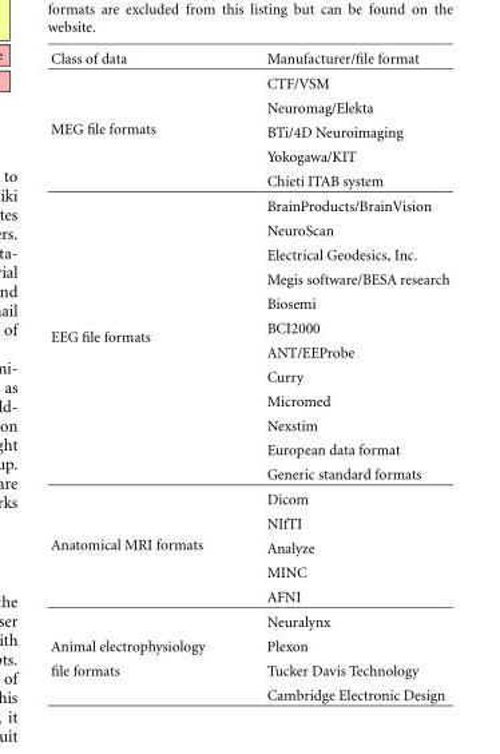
<table><thead><tr><td>Class of data</td><td>Manufacturer/file format</td></tr></thead><tbody><tr><td rowspan="5">MEG file formats</td><td>CTF/VSM</td></tr><tr><td>Neuromag/Elekta</td></tr><tr><td>BTi/4D Neuroimaging</td></tr><tr><td>Yokogawa/KIT</td></tr><tr><td>Chieti ITAB system</td></tr><tr><td rowspan="12">EEG file formats</td><td>BrainProducts/BrainVision</td></tr><tr><td>NeuroScan</td></tr><tr><td>Electrical Geodesics, Inc.</td></tr><tr><td>Megis software/BESA research</td></tr><tr><td>Biosemi</td></tr><tr><td>BCI2000</td></tr><tr><td>ANT/EEProbe</td></tr><tr><td>Curry</td></tr><tr><td>Micromed</td></tr><tr><td>Nexstim</td></tr><tr><td>European data format</td></tr><tr><td>Generic standard formats</td></tr><tr><td rowspan="6">Anatomical MRI formats</td><td>Dicom</td></tr><tr><td>NIfTI</td></tr><tr><td>Analyze</td></tr><tr><td>MINC</td></tr><tr><td>AFNI</td></tr><tr><td>Neuralynx</td></tr><tr><td>Animal electrophysiology</td><td>Plexon</td></tr><tr><td rowspan="2">file formats</td><td>Tucker Davis Technology</td></tr><tr><td>Cambridge Electronic Design</td></tr></tbody></table>